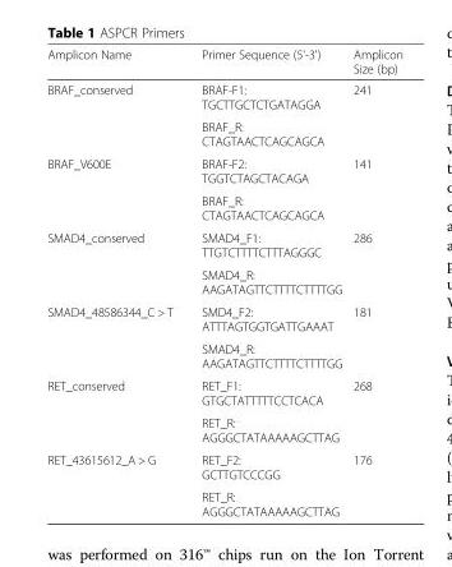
<table><thead><tr><td>Amplicon Name</td><td>Primer Sequence (5&#x27;-3&#x27;)</td><td>Amplicon Size (bp)</td></tr></thead><tbody><tr><td rowspan="2">BRAF_conserved</td><td>BRAF-F1: TGCTTGCTCTGATAGGA</td><td rowspan="2">241</td></tr><tr><td>BRAF_R: CTAGTAACTCAGCAGCA</td></tr><tr><td rowspan="2">BRAF_V600E</td><td>BRAF-F2: TGGTCTAGCTACAGA</td><td rowspan="2">141</td></tr><tr><td>BRAF_R: CTAGTAACTCAGCAGCA</td></tr><tr><td rowspan="2">SMAD4_conserved</td><td>SMAD4_F1: TTGTCTTTTCTTTAGGGC</td><td rowspan="2">286</td></tr><tr><td>SMAD4_R: AAGATAGTTCTTTTCTTTTGG</td></tr><tr><td rowspan="2">SMAD4_48586344_C &gt; T</td><td>SMD4_F2: ATTTAGTGGTGATTGAAAT</td><td rowspan="2">181</td></tr><tr><td>SMAD4_R: AAGATAGTTCTTTTCTTTTGG</td></tr><tr><td rowspan="2">RET_conserved</td><td>RET_F1: GTGCTATTTTTCCTCACA</td><td rowspan="2">268</td></tr><tr><td>RET_R: AGGGCTATAAAAAGCTTAG</td></tr><tr><td rowspan="2">RET_43615612_A &gt; G</td><td>RET_F2: GCTTGTCCCGG</td><td rowspan="2">176</td></tr><tr><td>RET_R: AGGGCTATAAAAAGCTTAG</td></tr></tbody></table>